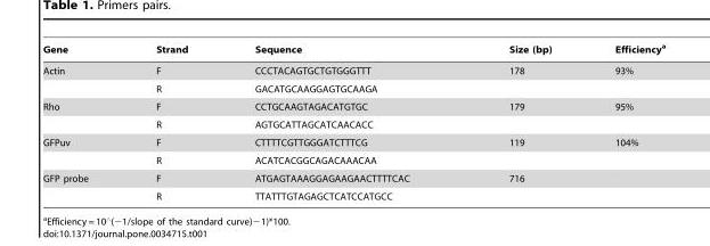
<table><thead><tr><td>Gene</td><td>Strand</td><td>Sequence</td><td>Size (bp)</td><td>Efficiency<sup>a</sup></td></tr></thead><tbody><tr><td rowspan="2">Actin</td><td>F</td><td>CCCTACAGTGCTGTGGGTTT</td><td>178</td><td>93%</td></tr><tr><td>R</td><td>GACATGCAAGGAGTGCAAGA</td><td></td><td></td></tr><tr><td rowspan="2">Rho</td><td>F</td><td>CCTGCAAGTAGACATGTGC</td><td>179</td><td>95%</td></tr><tr><td>R</td><td>AGTGCATTAGCATCAACACC</td><td></td><td></td></tr><tr><td rowspan="2">GFPuv</td><td>F</td><td>CTTTTCGTTGGGATCTTTCG</td><td>119</td><td>104%</td></tr><tr><td>R</td><td>ACATCACGGCAGACAAACAA</td><td></td><td></td></tr><tr><td rowspan="2">GFP probe</td><td>F</td><td>ATGAGTAAAGGAGAAGAACTTTTCAC</td><td>716</td><td></td></tr><tr><td>R</td><td>TTATTTGTAGAGCTCATCCATGCC</td><td></td><td></td></tr></tbody></table>